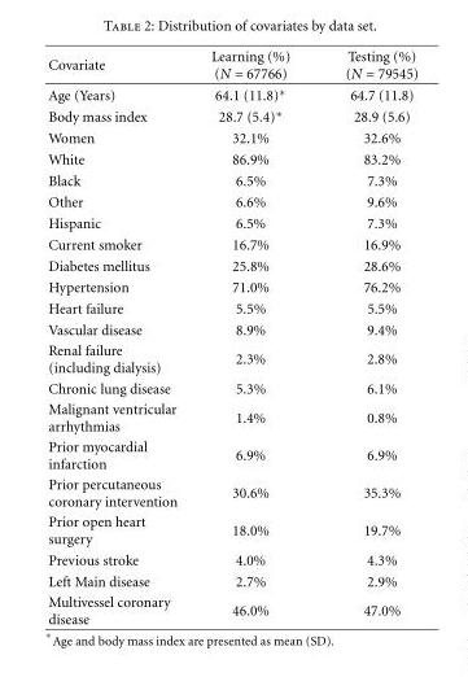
<table><thead><tr><td>Covariate</td><td>Learning (%) (N = 67766)</td><td>Testing (%) (N = 79545)</td></tr></thead><tbody><tr><td>Age (Years)</td><td>64.1 (11.8)∗</td><td>64.7 (11.8)</td></tr><tr><td>Body mass index</td><td>28.7 (5.4)∗</td><td>28.9 (5.6)</td></tr><tr><td>Women</td><td>32.1%</td><td>32.6%</td></tr><tr><td>White</td><td>86.9%</td><td>83.2%</td></tr><tr><td>Black</td><td>6.5%</td><td>7.3%</td></tr><tr><td>Other</td><td>6.6%</td><td>9.6%</td></tr><tr><td>Hispanic</td><td>6.5%</td><td>7.3%</td></tr><tr><td>Current smoker</td><td>16.7%</td><td>16.9%</td></tr><tr><td>Diabetes mellitus</td><td>25.8%</td><td>28.6%</td></tr><tr><td>Hypertension</td><td>71.0%</td><td>76.2%</td></tr><tr><td>Heart failure</td><td>5.5%</td><td>5.5%</td></tr><tr><td>Vascular disease</td><td>8.9%</td><td>9.4%</td></tr><tr><td>Renal failure (including dialysis)</td><td>2.3%</td><td>2.8%</td></tr><tr><td>Chronic lung disease</td><td>5.3%</td><td>6.1%</td></tr><tr><td>Malignant ventricular arrhythmias</td><td>1.4%</td><td>0.8%</td></tr><tr><td>Prior myocardial infarction</td><td>6.9%</td><td>6.9%</td></tr><tr><td>Prior percutaneous coronary intervention</td><td>30.6%</td><td>35.3%</td></tr><tr><td>Prior open heart surgery</td><td>18.0%</td><td>19.7%</td></tr><tr><td>Previous stroke</td><td>4.0%</td><td>4.3%</td></tr><tr><td>Left Main disease</td><td>2.7%</td><td>2.9%</td></tr><tr><td>Multivessel coronary disease</td><td>46.0%</td><td>47.0%</td></tr></tbody></table>